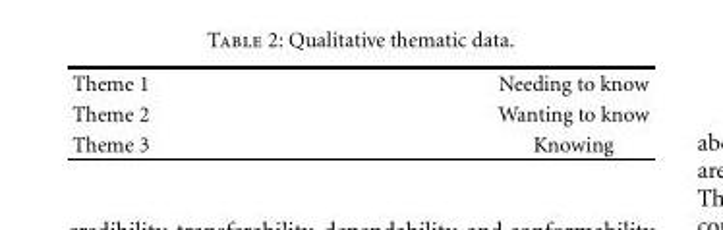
<table><tbody><tr><td>Theme 1</td><td>Needing to know</td></tr><tr><td>Theme 2</td><td>Wanting to know</td></tr><tr><td>Theme 3</td><td>Knowing</td></tr></tbody></table>